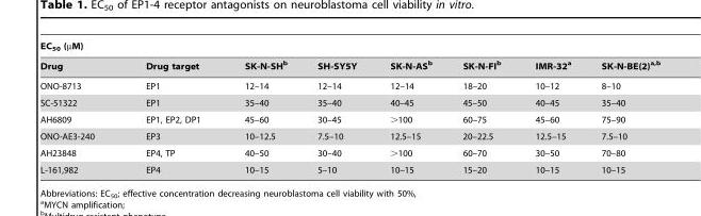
<table><thead><tr><td colspan="8">EC<sub>50</sub> (µM)</td></tr><tr><td>Drug</td><td>Drug target</td><td>SK-N-SH<sup>b</sup></td><td>SH-SY5Y</td><td>SK-N-AS<sup>b</sup></td><td>SK-N-FI<sup>b</sup></td><td>IMR-32<sup>a</sup></td><td>SK-N-BE(2)<sup>a,</sup>b</td></tr></thead><tbody><tr><td>ONO-8713</td><td>EP1</td><td>12–14</td><td>12–14</td><td>12–14</td><td>18–20</td><td>10–12</td><td>8–10</td></tr><tr><td>SC-51322</td><td>EP1</td><td>35–40</td><td>35–40</td><td>40–45</td><td>45–50</td><td>40–45</td><td>35–40</td></tr><tr><td>AH6809</td><td>EP1, EP2, DP1</td><td>45–60</td><td>30–45</td><td>&gt;100</td><td>60–75</td><td>45–60</td><td>75–90</td></tr><tr><td>ONO-AE3-240</td><td>EP3</td><td>10–12.5</td><td>7.5–10</td><td>12.5–15</td><td>20–22.5</td><td>12.5–15</td><td>7.5–10</td></tr><tr><td>AH23848</td><td>EP4, TP</td><td>40–50</td><td>30–40</td><td>&gt;100</td><td>60–70</td><td>30–50</td><td>70–80</td></tr><tr><td>L-161,982</td><td>EP4</td><td>10–15</td><td>5–10</td><td>10–15</td><td>15–20</td><td>10–15</td><td>10–15</td></tr></tbody></table>